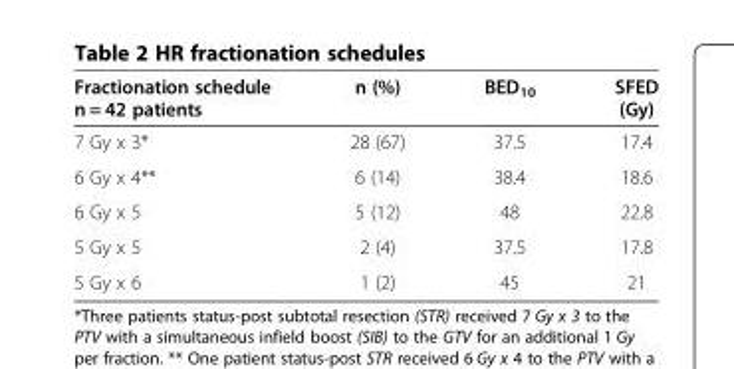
<table><thead><tr><td>Fractionation schedule n = 42 patients</td><td>n (%)</td><td>BED<sub>10</sub></td><td>SFED (Gy)</td></tr></thead><tbody><tr><td>7 Gy x 3*</td><td>28 (67)</td><td>37.5</td><td>17.4</td></tr><tr><td>6 Gy x 4**</td><td>6 (14)</td><td>38.4</td><td>18.6</td></tr><tr><td>6 Gy x 5</td><td>5 (12)</td><td>48</td><td>22.8</td></tr><tr><td>5 Gy x 5</td><td>2 (4)</td><td>37.5</td><td>17.8</td></tr><tr><td>5 Gy x 6</td><td>1 (2)</td><td>45</td><td>21</td></tr></tbody></table>